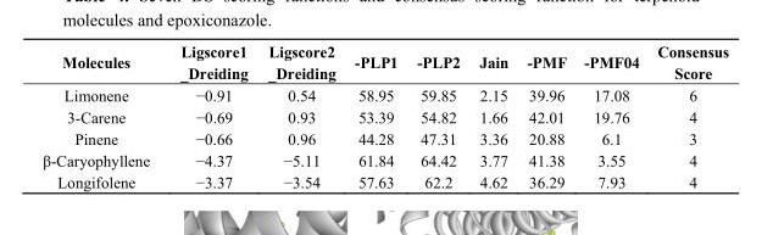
<table><thead><tr><td>Molecules</td><td>Ligscore1 _Dreiding</td><td>Ligscore2 _Dreiding</td><td>-PLP1</td><td>-PLP2</td><td>Jain</td><td>-PMF</td><td>-PMF04</td><td>Consensus Score</td></tr></thead><tbody><tr><td>Limonene</td><td>−0.91</td><td>0.54</td><td>58.95</td><td>59.85</td><td>2.15</td><td>39.96</td><td>17.08</td><td>6</td></tr><tr><td>3-Carene</td><td>−0.69</td><td>0.93</td><td>53.39</td><td>54.82</td><td>1.66</td><td>42.01</td><td>19.76</td><td>4</td></tr><tr><td>Pinene</td><td>−0.66</td><td>0.96</td><td>44.28</td><td>47.31</td><td>3.36</td><td>20.88</td><td>6.1</td><td>3</td></tr><tr><td>β-Caryophyllene</td><td>−4.37</td><td>−5.11</td><td>61.84</td><td>64.42</td><td>3.77</td><td>41.38</td><td>3.55</td><td>4</td></tr><tr><td>Longifolene</td><td>−3.37</td><td>−3.54</td><td>57.63</td><td>62.2</td><td>4.62</td><td>36.29</td><td>7.93</td><td>4</td></tr></tbody></table>